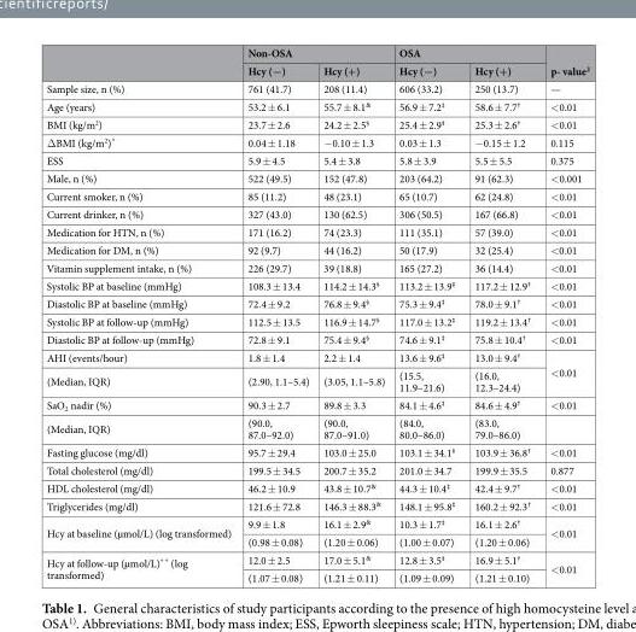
<table><thead><tr><td rowspan="2"></td><td colspan="2">Non-OSA</td><td colspan="2">OSA</td><td rowspan="2">p- value<sup>2</sup></td></tr><tr><td>Hcy (−)</td><td>Hcy (+)</td><td>Hcy (−)</td><td>Hcy (+)</td></tr></thead><tbody><tr><td>Sample size, n (%)</td><td>761 (41.7)</td><td>208 (11.4)</td><td>606 (33.2)</td><td>250 (13.7)</td><td>—</td></tr><tr><td>Age (years)</td><td>53.2 ± 6.1</td><td>55.7 ± 8.1<sup>&amp;</sup></td><td>56.9 ± 7.2<sup>‡</sup></td><td>58.6 ± 7.7<sup>†</sup></td><td>&lt;0.01</td></tr><tr><td>BMI (kg/m<sup>2</sup>)</td><td>23.7 ± 2.6</td><td>24.2 ± 2.5<sup>§</sup></td><td>25.4 ± 2.9<sup>‡</sup></td><td>25.3 ± 2.6<sup>†</sup></td><td>&lt;0.01</td></tr><tr><td>ΔBMI (kg/m<sup>2</sup>)*</td><td>0.04 ± 1.18</td><td>−0.10 ± 1.3</td><td>0.03 ± 1.3</td><td>−0.15 ± 1.2</td><td>0.115</td></tr><tr><td>ESS</td><td>5.9 ± 4.5</td><td>5.4 ± 3.8</td><td>5.8 ± 3.9</td><td>5.5 ± 5.5</td><td>0.375</td></tr><tr><td>Male, n (%)</td><td>522 (49.5)</td><td>152 (47.8)</td><td>203 (64.2)</td><td>91 (62.3)</td><td>&lt;0.001</td></tr><tr><td>Current smoker, n (%)</td><td>85 (11.2)</td><td>48 (23.1)</td><td>65 (10.7)</td><td>62 (24.8)</td><td>&lt;0.01</td></tr><tr><td>Current drinker, n (%)</td><td>327 (43.0)</td><td>130 (62.5)</td><td>306 (50.5)</td><td>167 (66.8)</td><td>&lt;0.01</td></tr><tr><td>Medication for HTN, n (%)</td><td>171 (16.2)</td><td>74 (23.3)</td><td>111 (35.1)</td><td>57 (39.0)</td><td>&lt;0.01</td></tr><tr><td>Medication for DM, n (%)</td><td>92 (9.7)</td><td>44 (16.2)</td><td>50 (17.9)</td><td>32 (25.4)</td><td>&lt;0.01</td></tr><tr><td>Vitamin supplement intake, n (%)</td><td>226 (29.7)</td><td>39 (18.8)</td><td>165 (27.2)</td><td>36 (14.4)</td><td>&lt;0.01</td></tr><tr><td>Systolic BP at baseline (mmHg)</td><td>108.3 ± 13.4</td><td>114.2 ± 14.3<sup>§</sup></td><td>113.2 ± 13.9<sup>‡</sup></td><td>117.2 ± 12.9<sup>†</sup></td><td>&lt;0.01</td></tr><tr><td>Diastolic BP at baseline (mmHg)</td><td>72.4 ± 9.2</td><td>76.8 ± 9.4<sup>§</sup></td><td>75.3 ± 9.4<sup>‡</sup></td><td>78.0 ± 9.1<sup>†</sup></td><td>&lt;0.01</td></tr><tr><td>Systolic BP at follow-up (mmHg)</td><td>112.5 ± 13.5</td><td>116.9 ± 14.7<sup>§</sup></td><td>117.0 ± 13.2<sup>‡</sup></td><td>119.2 ± 13.4<sup>†</sup></td><td>&lt;0.01</td></tr><tr><td>Diastolic BP at follow-up (mmHg)</td><td>72.8 ± 9.1</td><td>75.4 ± 9.4<sup>§</sup></td><td>74.6 ± 9.1<sup>‡</sup></td><td>75.8 ± 10.4<sup>†</sup></td><td>&lt;0.01</td></tr><tr><td>AHI (events/hour)</td><td>1.8 ± 1.4</td><td>2.2 ± 1.4</td><td>13.6 ± 9.6<sup>‡</sup></td><td>13.0 ± 9.4<sup>†</sup></td><td rowspan="2">&lt;0.01</td></tr><tr><td>(Median, IQR)</td><td>(2.90, 1.1–5.4)</td><td>(3.05, 1.1–5.8)</td><td>(15.5, 11.9–21.6)</td><td>(16.0, 12.3–24.4)</td></tr><tr><td>SaO<sub>2</sub> nadir (%)</td><td>90.3 ± 2.7</td><td>89.8 ± 3.3</td><td>84.1 ± 4.6<sup>‡</sup></td><td>84.6 ± 4.9<sup>†</sup></td><td>&lt;0.01</td></tr><tr><td>(Median, IQR)</td><td>(90.0, 87.0–92.0)</td><td>(90.0, 87.0–91.0)</td><td>(84.0, 80.0–86.0)</td><td>(83.0, 79.0–86.0)</td><td></td></tr><tr><td>Fasting glucose (mg/dl)</td><td>95.7 ± 29.4</td><td>103.0 ± 25.0</td><td>103.1 ± 34.1<sup>‡</sup></td><td>103.9 ± 36.8<sup>†</sup></td><td>&lt;0.01</td></tr><tr><td>Total cholesterol (mg/dl)</td><td>199.5 ± 34.5</td><td>200.7 ± 35.2</td><td>201.0 ± 34.7</td><td>199.9 ± 35.5</td><td>0.877</td></tr><tr><td>HDL cholesterol (mg/dl)</td><td>46.2 ± 10.9</td><td>43.8 ± 10.7<sup>&amp;</sup></td><td>44.3 ± 10.4<sup>‡</sup></td><td>42.4 ± 9.7<sup>†</sup></td><td>&lt;0.01</td></tr><tr><td>Triglycerides (mg/dl)</td><td>121.6 ± 72.8</td><td>146.3 ± 88.3<sup>&amp;</sup></td><td>148.1 ± 95.8<sup>‡</sup></td><td>160.2 ± 92.3<sup>†</sup></td><td>&lt;0.01</td></tr><tr><td rowspan="2">Hcy at baseline (µmol/L) (log transformed)</td><td>9.9 ± 1.8</td><td>16.1 ± 2.9<sup>&amp;</sup></td><td>10.3 ± 1.7<sup>‡</sup></td><td>16.1 ± 2.6<sup>†</sup></td><td rowspan="2">&lt;0.01</td></tr><tr><td>(0.98 ± 0.08)</td><td>(1.20 ± 0.06)</td><td>(1.00 ± 0.07)</td><td>(1.20 ± 0.06)</td></tr><tr><td rowspan="2">Hcy at follow-up (µmol/L)* * (log transformed)</td><td>12.0 ± 2.5</td><td>17.0 ± 5.1<sup>&amp;</sup></td><td>12.8 ± 3.5<sup>‡</sup></td><td>16.9 ± 5.1<sup>†</sup></td><td rowspan="2">&lt;0.01</td></tr><tr><td>(1.07 ± 0.08)</td><td>(1.21 ± 0.11)</td><td>(1.09 ± 0.09)</td><td>(1.21 ± 0.10)</td></tr></tbody></table>